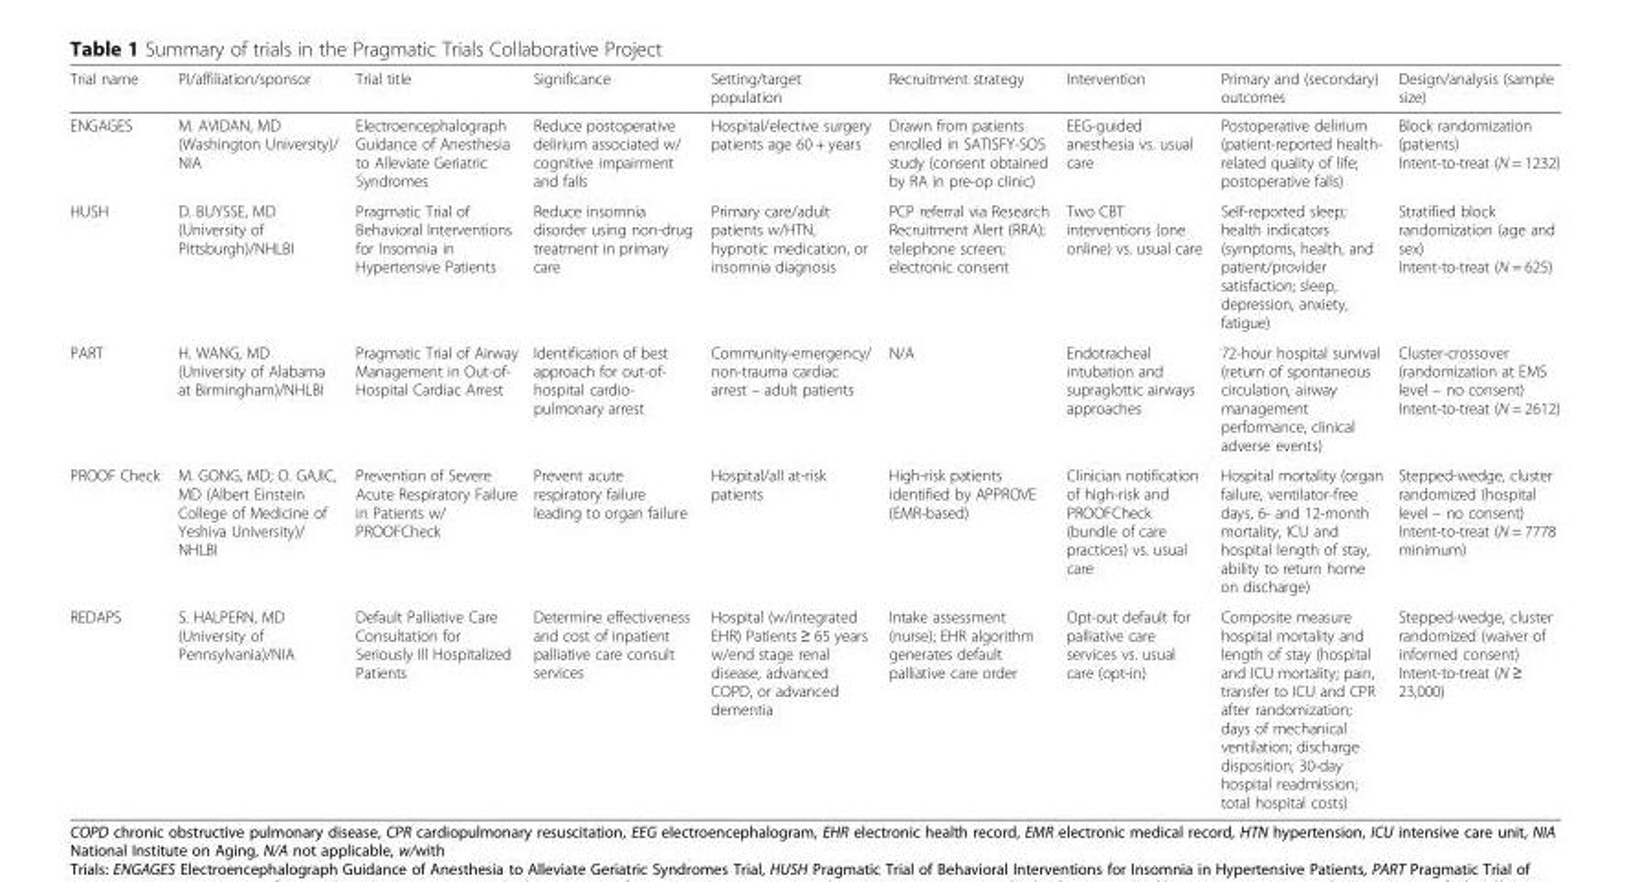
<table><thead><tr><td>Trial name</td><td>PI/affiliation/sponsor</td><td>Trial title</td><td>Significance</td><td>Setting/target population</td><td>Recruitment strategy</td><td>Intervention</td><td>Primary and (secondary) outcomes</td><td>Design/analysis (sample size)</td></tr></thead><tbody><tr><td>ENGAGES</td><td>M. AVIDAN, MD (Washington University)/ NIA</td><td>Electroencephalograph Guidance of Anesthesia to Alleviate Geriatric Syndromes</td><td>Reduce postoperative delirium associated w/ cognitive impairment and falls</td><td>Hospital/elective surgery patients age 60 + years</td><td>Drawn from patients enrolled in SATISFY-SOS study (consent obtained by RA in pre-op clinic)</td><td>EEG-guided anesthesia vs. usual care</td><td>Postoperative delirium (patient-reported health- related quality of life; postoperative falls)</td><td>Block randomization (patients) Intent-to-treat (N = 1232)</td></tr><tr><td>HUSH</td><td>D. BUYSSE, MD (University of Pittsburgh)/NHLBI</td><td>Pragmatic Trial of Behavioral Interventions for Insomnia in Hypertensive Patients</td><td>Reduce insomnia disorder using non-drug treatment in primary care</td><td>Primary care/adult patients w/HTN, hypnotic medication, or insomnia diagnosis</td><td>PCP referral via Research Recruitment Alert (RRA); telephone screen; electronic consent</td><td>Two CBT interventions (one online) vs. usual care</td><td>Self-reported sleep; health indicators (symptoms, health, and patient/provider satisfaction; sleep, depression, anxiety, fatigue)</td><td>Stratified block randomization (age and sex) Intent-to-treat (N = 625)</td></tr><tr><td>PART</td><td>H. WANG, MD (University of Alabama at Birmingham)/NHLBI</td><td>Pragmatic Trial of Airway Management in Out-of- Hospital Cardiac Arrest</td><td>Identification of best approach for out-of- hospital cardio- pulmonary arrest</td><td>Community-emergency/ non-trauma cardiac arrest – adult patients</td><td>N/A</td><td>Endotracheal intubation and supraglottic airways approaches</td><td>72-hour hospital survival (return of spontaneous circulation, airway management performance, clinical adverse events)</td><td>Cluster-crossover (randomization at EMS level – no consent) Intent-to-treat (N = 2612)</td></tr><tr><td>PROOF Check</td><td>M. GONG, MD; O. GAJIC, MD (Albert Einstein College of Medicine of Yeshiva University)/ NHLBI</td><td>Prevention of Severe Acute Respiratory Failure in Patients w/ PROOFCheck</td><td>Prevent acute respiratory failure leading to organ failure</td><td>Hospital/all at-risk patients</td><td>High-risk patients identified by APPROVE (EMR-based)</td><td>Clinician notification of high-risk and PROOFCheck (bundle of care practices) vs. usual care</td><td>Hospital mortality (organ failure, ventilator-free days, 6- and 12-month mortality, ICU and hospital length of stay, ability to return home on discharge)</td><td>Stepped-wedge, cluster randomized (hospital level – no consent) Intent-to-treat (N = 7778 minimum)</td></tr><tr><td>REDAPS</td><td>S. HALPERN, MD (University of Pennsylvania)/NIA</td><td>Default Palliative Care Consultation for Seriously Ill Hospitalized Patients</td><td>Determine effectiveness and cost of inpatient palliative care consult services</td><td>Hospital (w/integrated EHR) Patients ≥ 65 years w/end stage renal disease, advanced COPD, or advanced dementia</td><td>Intake assessment (nurse); EHR algorithm generates default palliative care order</td><td>Opt-out default for palliative care services vs. usual care (opt-in)</td><td>Composite measure hospital mortality and length of stay (hospital and ICU mortality; pain, transfer to ICU and CPR after randomization; days of mechanical ventilation; discharge disposition; 30-day hospital readmission; total hospital costs)</td><td>Stepped-wedge, cluster randomized (waiver of informed consent) Intent-to-treat (N ≥ 23,000)</td></tr></tbody></table>